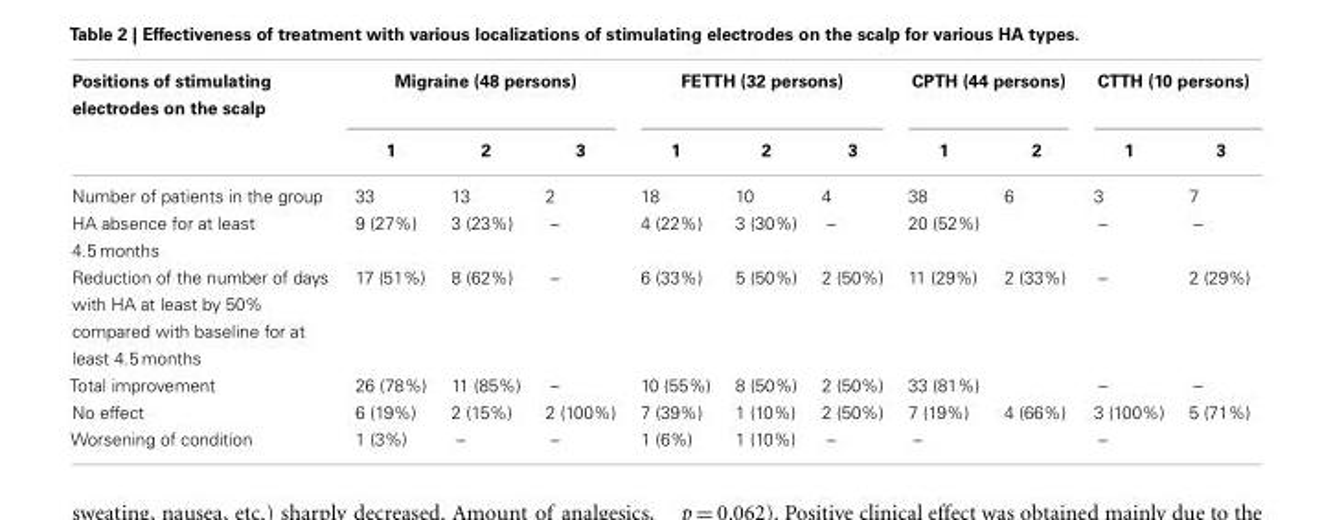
<table><thead><tr><td rowspan="2">Positions of stimulating electrodes on the scalp</td><td colspan="3">Migraine (48 persons)</td><td colspan="3">FETTH (32 persons)</td><td colspan="2">CPTH (44 persons)</td><td colspan="2">CTTH (10 persons)</td></tr><tr><td>1</td><td>2</td><td>3</td><td>1</td><td>2</td><td>3</td><td>1</td><td>2</td><td>1</td><td>3</td></tr></thead><tbody><tr><td>Number of patients in the group</td><td>33</td><td>13</td><td>2</td><td>18</td><td>10</td><td>4</td><td>38</td><td>6</td><td>3</td><td>7</td></tr><tr><td>HA absence for at least 4.5 months</td><td>9 (27%)</td><td>3 (23%)</td><td>–</td><td>4 (22%)</td><td>3 (30%)</td><td>–</td><td>20 (52%)</td><td></td><td>–</td><td>–</td></tr><tr><td>Reduction of the number of days with HA at least by 50% compared with baseline for at least 4.5 months</td><td>17 (51%)</td><td>8 (62%)</td><td>–</td><td>6 (33%)</td><td>5 (50%)</td><td>2 (50%)</td><td>11 (29%)</td><td>2 (33%)</td><td>–</td><td>2 (29%)</td></tr><tr><td>Total improvement</td><td>26 (78%)</td><td>11 (85%)</td><td>–</td><td>10 (55%)</td><td>8 (50%)</td><td>2 (50%)</td><td>33 (81%)</td><td></td><td>–</td><td>–</td></tr><tr><td>No effect</td><td>6 (19%)</td><td>2 (15%)</td><td>2 (100%)</td><td>7 (39%)</td><td>1 (10%)</td><td>2 (50%)</td><td>7 (19%)</td><td>4 (66%)</td><td>3 (100%)</td><td>5 (71%)</td></tr><tr><td>Worsening of condition</td><td>1 (3%)</td><td>–</td><td>–</td><td>1 (6%)</td><td>1 (10%)</td><td>–</td><td>–</td><td></td><td>–</td><td></td></tr></tbody></table>